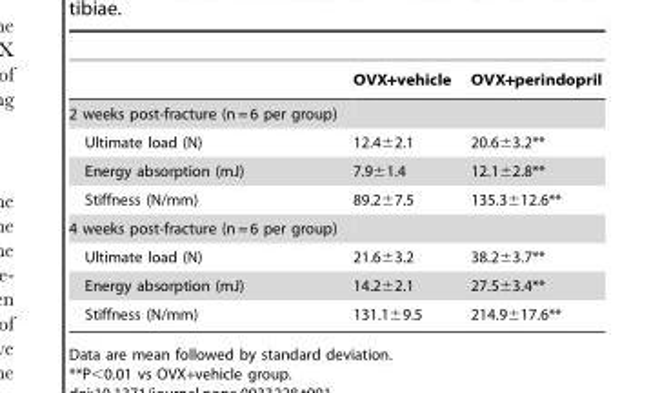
<table><thead><tr><td></td><td>OVX+vehicle</td><td>OVX+perindopril</td></tr></thead><tbody><tr><td colspan="3">2 weeks post-fracture (n = 6 per group)</td></tr><tr><td>Ultimate load (N)</td><td>12.4±2.1</td><td>20.6±3.2**</td></tr><tr><td>Energy absorption (mJ)</td><td>7.9±1.4</td><td>12.1±2.8**</td></tr><tr><td>Stiffness (N/mm)</td><td>89.2±7.5</td><td>135.3±12.6**</td></tr><tr><td colspan="3">4 weeks post-fracture (n = 6 per group)</td></tr><tr><td>Ultimate load (N)</td><td>21.6±3.2</td><td>38.2±3.7**</td></tr><tr><td>Energy absorption (mJ)</td><td>14.2±2.1</td><td>27.5±3.4**</td></tr><tr><td>Stiffness (N/mm)</td><td>131.1±9.5</td><td>214.9±17.6**</td></tr></tbody></table>